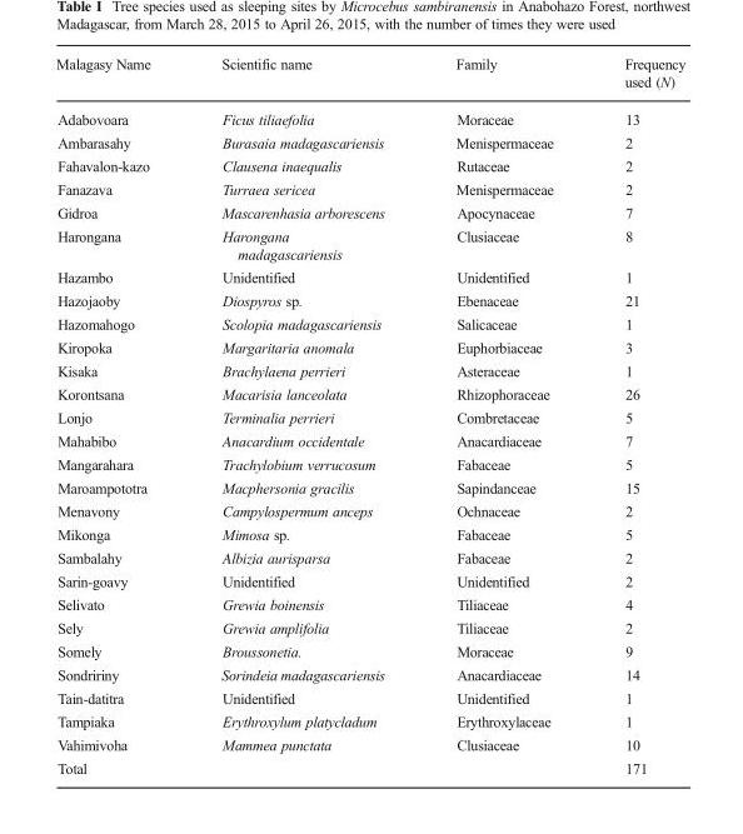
<table><thead><tr><td>Malagasy Name</td><td>Scientific name</td><td>Family</td><td>Frequency used (N)</td></tr></thead><tbody><tr><td>Adabovoara</td><td>Ficus tiliaefolia</td><td>Moraceae</td><td>13</td></tr><tr><td>Ambarasahy</td><td>Burasaia madagascariensis</td><td>Menispermaceae</td><td>2</td></tr><tr><td>Fahavalon-kazo</td><td>Clausena inaequalis</td><td>Rutaceae</td><td>2</td></tr><tr><td>Fanazava</td><td>Turraea sericea</td><td>Menispermaceae</td><td>2</td></tr><tr><td>Gidroa</td><td>Mascarenhasia arborescens</td><td>Apocynaceae</td><td>7</td></tr><tr><td>Harongana</td><td>Harongana madagascariensis</td><td>Clusiaceae</td><td>8</td></tr><tr><td>Hazambo</td><td>Unidentified</td><td>Unidentified</td><td>1</td></tr><tr><td>Hazojaoby</td><td>Diospyros sp.</td><td>Ebenaceae</td><td>21</td></tr><tr><td>Hazomahogo</td><td>Scolopia madagascariensis</td><td>Salicaceae</td><td>1</td></tr><tr><td>Kiropoka</td><td>Margaritaria anomala</td><td>Euphorbiaceae</td><td>3</td></tr><tr><td>Kisaka</td><td>Brachylaena perrieri</td><td>Asteraceae</td><td>1</td></tr><tr><td>Korontsana</td><td>Macarisia lanceolata</td><td>Rhizophoraceae</td><td>26</td></tr><tr><td>Lonjo</td><td>Terminalia perrieri</td><td>Combretaceae</td><td>5</td></tr><tr><td>Mahabibo</td><td>Anacardium occidentale</td><td>Anacardiaceae</td><td>7</td></tr><tr><td>Mangarahara</td><td>Trachylobium verrucosum</td><td>Fabaceae</td><td>5</td></tr><tr><td>Maroampototra</td><td>Macphersonia gracilis</td><td>Sapindanceae</td><td>15</td></tr><tr><td>Menavony</td><td>Campylospermum anceps</td><td>Ochnaceae</td><td>2</td></tr><tr><td>Mikonga</td><td>Mimosa sp.</td><td>Fabaceae</td><td>5</td></tr><tr><td>Sambalahy</td><td>Albizia aurisparsa</td><td>Fabaceae</td><td>2</td></tr><tr><td>Sarin-goavy</td><td>Unidentified</td><td>Unidentified</td><td>2</td></tr><tr><td>Selivato</td><td>Grewia boinensis</td><td>Tiliaceae</td><td>4</td></tr><tr><td>Sely</td><td>Grewia amplifolia</td><td>Tiliaceae</td><td>2</td></tr><tr><td>Somely</td><td>Broussonetia.</td><td>Moraceae</td><td>9</td></tr><tr><td>Sondririny</td><td>Sorindeia madagascariensis</td><td>Anacardiaceae</td><td>14</td></tr><tr><td>Tain-datitra</td><td>Unidentified</td><td>Unidentified</td><td>1</td></tr><tr><td>Tampiaka</td><td>Erythroxylum platycladum</td><td>Erythroxylaceae</td><td>1</td></tr><tr><td>Vahimivoha</td><td>Mammea punctata</td><td>Clusiaceae</td><td>10</td></tr><tr><td colspan="3">Total</td><td>171</td></tr></tbody></table>